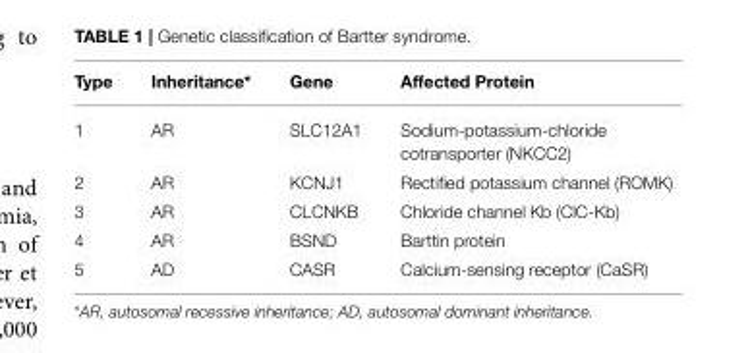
<table><thead><tr><td>Type</td><td>Inheritance*</td><td>Gene</td><td>Affected Protein</td></tr></thead><tbody><tr><td>1</td><td>AR</td><td>SLC12A1</td><td>Sodium-potassium-chloride cotransporter (NKCC2)</td></tr><tr><td>2</td><td>AR</td><td>KCNJ1</td><td>Rectified potassium channel (ROMK)</td></tr><tr><td>3</td><td>AR</td><td>CLCNKB</td><td>Chloride channel Kb (ClC-Kb)</td></tr><tr><td>4</td><td>AR</td><td>BSND</td><td>Barttin protein</td></tr><tr><td>5</td><td>AD</td><td>CASR</td><td>Calcium-sensing receptor (CaSR)</td></tr></tbody></table>